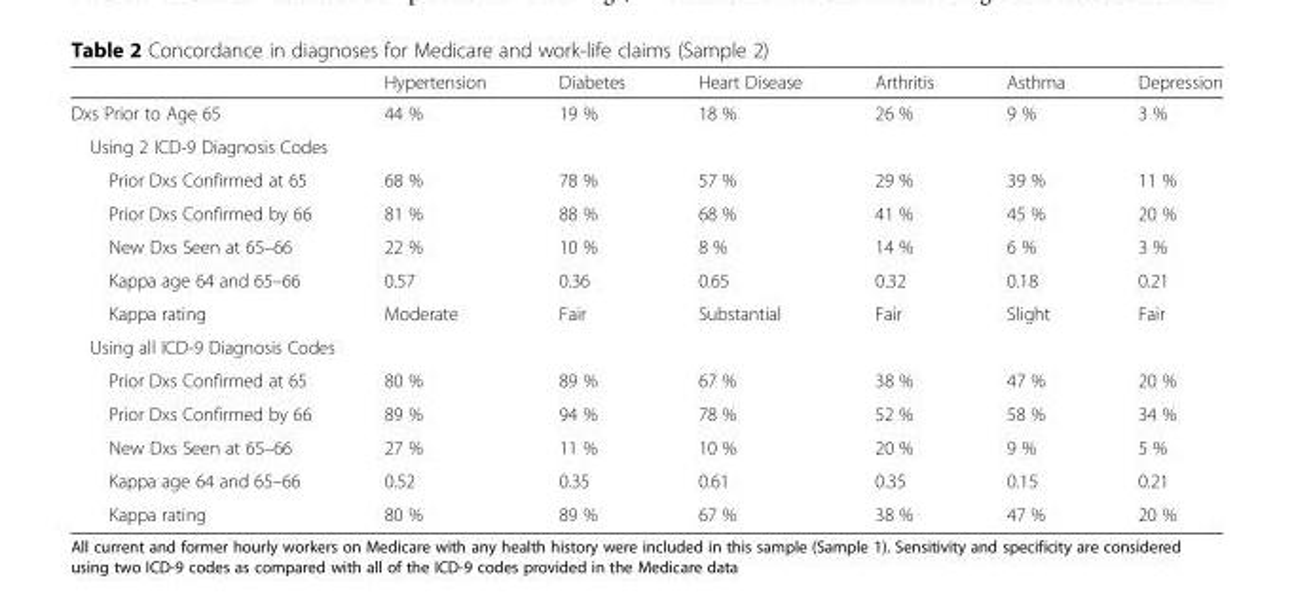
<table><thead><tr><td></td><td>Hypertension</td><td>Diabetes</td><td>Heart Disease</td><td>Arthritis</td><td>Asthma</td><td>Depression</td></tr></thead><tbody><tr><td>Dxs Prior to Age 65</td><td>44 %</td><td>19 %</td><td>18 %</td><td>26 %</td><td>9 %</td><td>3 %</td></tr><tr><td colspan="7">Using 2 ICD-9 Diagnosis Codes</td></tr><tr><td>Prior Dxs Confirmed at 65</td><td>68 %</td><td>78 %</td><td>57 %</td><td>29 %</td><td>39 %</td><td>11 %</td></tr><tr><td>Prior Dxs Confirmed by 66</td><td>81 %</td><td>88 %</td><td>68 %</td><td>41 %</td><td>45 %</td><td>20 %</td></tr><tr><td>New Dxs Seen at 65–66</td><td>22 %</td><td>10 %</td><td>8 %</td><td>14 %</td><td>6 %</td><td>3 %</td></tr><tr><td>Kappa age 64 and 65–66</td><td>0.57</td><td>0.36</td><td>0.65</td><td>0.32</td><td>0.18</td><td>0.21</td></tr><tr><td>Kappa rating</td><td>Moderate</td><td>Fair</td><td>Substantial</td><td>Fair</td><td>Slight</td><td>Fair</td></tr><tr><td colspan="7">Using all ICD-9 Diagnosis Codes</td></tr><tr><td>Prior Dxs Confirmed at 65</td><td>80 %</td><td>89 %</td><td>67 %</td><td>38 %</td><td>47 %</td><td>20 %</td></tr><tr><td>Prior Dxs Confirmed by 66</td><td>89 %</td><td>94 %</td><td>78 %</td><td>52 %</td><td>58 %</td><td>34 %</td></tr><tr><td>New Dxs Seen at 65–66</td><td>27 %</td><td>11 %</td><td>10 %</td><td>20 %</td><td>9 %</td><td>5 %</td></tr><tr><td>Kappa age 64 and 65–66</td><td>0.52</td><td>0.35</td><td>0.61</td><td>0.35</td><td>0.15</td><td>0.21</td></tr><tr><td>Kappa rating</td><td>80 %</td><td>89 %</td><td>67 %</td><td>38 %</td><td>47 %</td><td>20 %</td></tr></tbody></table>